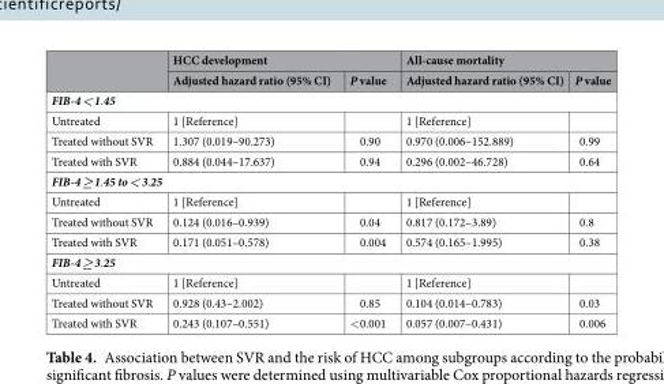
<table><thead><tr><td rowspan="2"></td><td colspan="2">HCC development</td><td colspan="2">All-cause mortality</td></tr><tr><td>Adjusted hazard ratio (95% CI)</td><td>P value</td><td>Adjusted hazard ratio (95% CI)</td><td>P value</td></tr></thead><tbody><tr><td colspan="5">FIB-4 &lt; 1.45</td></tr><tr><td>Untreated</td><td>1 [Reference]</td><td></td><td>1 [Reference]</td><td></td></tr><tr><td>Treated without SVR</td><td>1.307 (0.019–90.273)</td><td>0.90</td><td>0.970 (0.006–152.889)</td><td>0.99</td></tr><tr><td>Treated with SVR</td><td>0.884 (0.044–17.637)</td><td>0.94</td><td>0.296 (0.002–46.728)</td><td>0.64</td></tr><tr><td colspan="5">FIB-4 ≥ 1.45 to &lt; 3.25</td></tr><tr><td>Untreated</td><td>1 [Reference]</td><td></td><td>1 [Reference]</td><td></td></tr><tr><td>Treated without SVR</td><td>0.124 (0.016–0.939)</td><td>0.04</td><td>0.817 (0.172–3.89)</td><td>0.8</td></tr><tr><td>Treated with SVR</td><td>0.171 (0.051–0.578)</td><td>0.004</td><td>0.574 (0.165–1.995)</td><td>0.38</td></tr><tr><td colspan="5">FIB-4 ≥ 3.25</td></tr><tr><td>Untreated</td><td>1 [Reference]</td><td></td><td>1 [Reference]</td><td></td></tr><tr><td>Treated without SVR</td><td>0.928 (0.43–2.002)</td><td>0.85</td><td>0.104 (0.014–0.783)</td><td>0.03</td></tr><tr><td>Treated with SVR</td><td>0.243 (0.107–0.551)</td><td>&lt;0.001</td><td>0.057 (0.007–0.431)</td><td>0.006</td></tr></tbody></table>